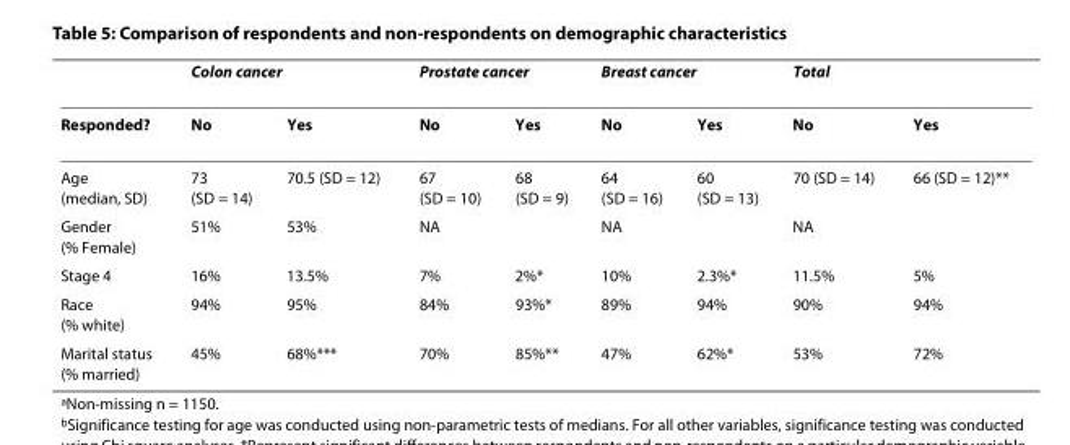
<table><thead><tr><td rowspan="2">Responded?</td><td colspan="2">Colon cancer</td><td colspan="2">Prostate cancer</td><td colspan="2">Breast cancer</td><td colspan="2">Total</td></tr><tr><td>No</td><td>Yes</td><td>No</td><td>Yes</td><td>No</td><td>Yes</td><td>No</td><td>Yes</td></tr></thead><tbody><tr><td>Age (median, SD)</td><td>73 (SD = 14)</td><td>70.5 (SD = 12)</td><td>67 (SD = 10)</td><td>68 (SD = 9)</td><td>64 (SD = 16)</td><td>60 (SD = 13)</td><td>70 (SD = 14)</td><td>66 (SD = 12)**</td></tr><tr><td>Gender (% Female)</td><td>51%</td><td>53%</td><td colspan="2">NA</td><td colspan="2">NA</td><td colspan="2">NA</td></tr><tr><td>Stage 4</td><td>16%</td><td>13.5%</td><td>7%</td><td>2%*</td><td>10%</td><td>2.3%*</td><td>11.5%</td><td>5%</td></tr><tr><td>Race (% white)</td><td>94%</td><td>95%</td><td>84%</td><td>93%*</td><td>89%</td><td>94%</td><td>90%</td><td>94%</td></tr><tr><td>Marital status (% married)</td><td>45%</td><td>68%***</td><td>70%</td><td>85%**</td><td>47%</td><td>62%*</td><td>53%</td><td>72%</td></tr></tbody></table>